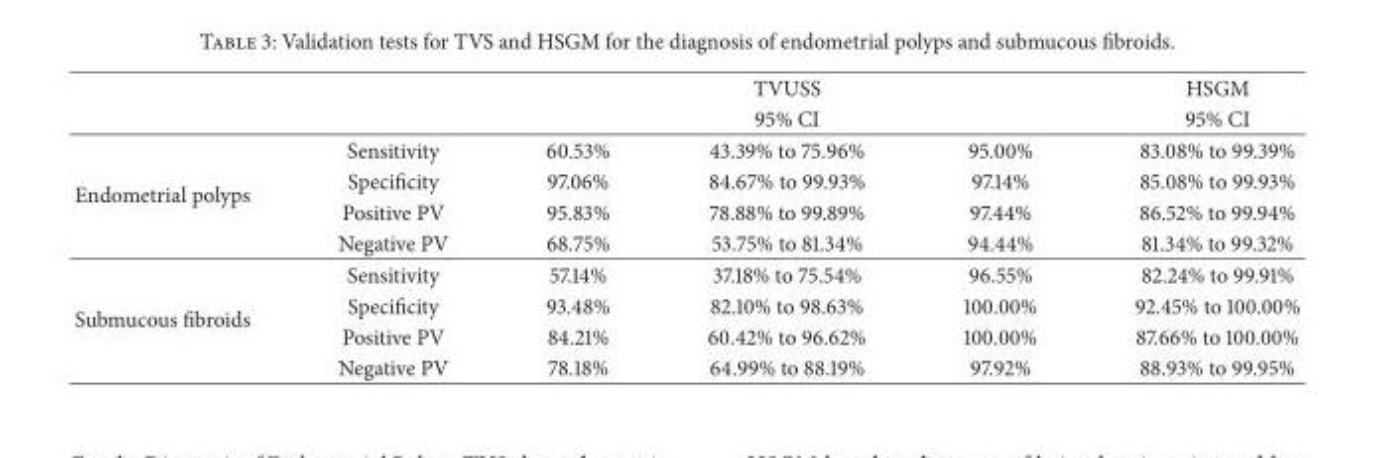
<table><thead><tr><td rowspan="2"></td><td rowspan="2"></td><td rowspan="2"></td><td rowspan="2">TVUSS 95% CI</td><td rowspan="2"></td><td rowspan="2">HSGM 95% CI</td></tr><tr></tr></thead><tbody><tr><td rowspan="4">Endometrial polyps</td><td>Sensitivity</td><td>60.53%</td><td>43.39% to 75.96%</td><td>95.00%</td><td>83.08% to 99.39%</td></tr><tr><td>Specificity</td><td>97.06%</td><td>84.67% to 99.93%</td><td>97.14%</td><td>85.08% to 99.93%</td></tr><tr><td>Positive PV</td><td>95.83%</td><td>78.88% to 99.89%</td><td>97.44%</td><td>86.52% to 99.94%</td></tr><tr><td>Negative PV</td><td>68.75%</td><td>53.75% to 81.34%</td><td>94.44%</td><td>81.34% to 99.32%</td></tr><tr><td rowspan="4">Submucous fibroids</td><td>Sensitivity</td><td>57.14%</td><td>37.18% to 75.54%</td><td>96.55%</td><td>82.24% to 99.91%</td></tr><tr><td>Specificity</td><td>93.48%</td><td>82.10% to 98.63%</td><td>100.00%</td><td>92.45% to 100.00%</td></tr><tr><td>Positive PV</td><td>84.21%</td><td>60.42% to 96.62%</td><td>100.00%</td><td>87.66% to 100.00%</td></tr><tr><td>Negative PV</td><td>78.18%</td><td>64.99% to 88.19%</td><td>97.92%</td><td>88.93% to 99.95%</td></tr></tbody></table>